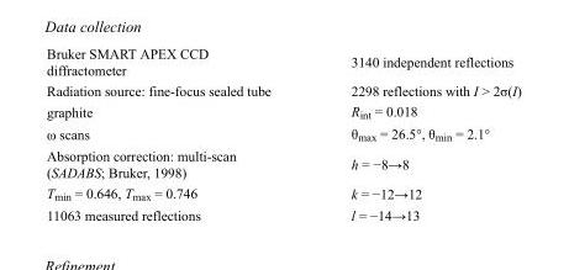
<table><tbody><tr><td>Bruker SMART APEX CCD diffractometer</td><td>3140 independent reflections</td></tr><tr><td>Radiation source: fine-focus sealed tube</td><td>2298 reflections with I &gt; 2σ(I)</td></tr><tr><td>graphite</td><td>R<sub>int</sub> = 0.018</td></tr><tr><td>ω scans</td><td>θ<sub>max</sub> = 26.5°, θ<sub>min</sub> = 2.1°</td></tr><tr><td>Absorption correction: multi-scan (SADABS; Bruker, 1998)</td><td>h = −8→8</td></tr><tr><td>T<sub>min</sub> = 0.646, T<sub>max</sub> = 0.746</td><td>k = −12→12</td></tr><tr><td>11063 measured reflections</td><td>l = −14→13</td></tr></tbody></table>